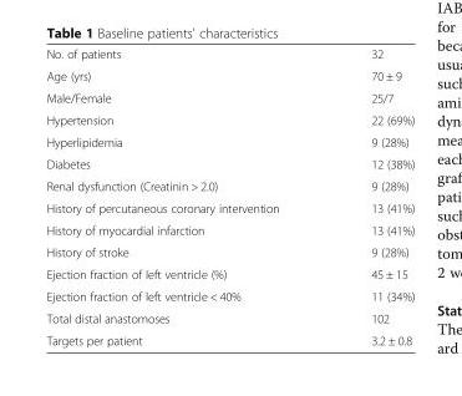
<table><tbody><tr><td>No. of patients</td><td>32</td></tr><tr><td>Age (yrs)</td><td>70 ± 9</td></tr><tr><td>Male/Female</td><td>25/7</td></tr><tr><td>Hypertension</td><td>22 (69%)</td></tr><tr><td>Hyperlipidemia</td><td>9 (28%)</td></tr><tr><td>Diabetes</td><td>12 (38%)</td></tr><tr><td>Renal dysfunction (Creatinin &gt; 2.0)</td><td>9 (28%)</td></tr><tr><td>History of percutaneous coronary intervention</td><td>13 (41%)</td></tr><tr><td>History of myocardial infarction</td><td>13 (41%)</td></tr><tr><td>History of stroke</td><td>9 (28%)</td></tr><tr><td>Ejection fraction of left ventricle (%)</td><td>45 ± 15</td></tr><tr><td>Ejection fraction of left ventricle &lt; 40%</td><td>11 (34%)</td></tr><tr><td>Total distal anastomoses</td><td>102</td></tr><tr><td>Targets per patient</td><td>3.2 ± 0.8</td></tr></tbody></table>